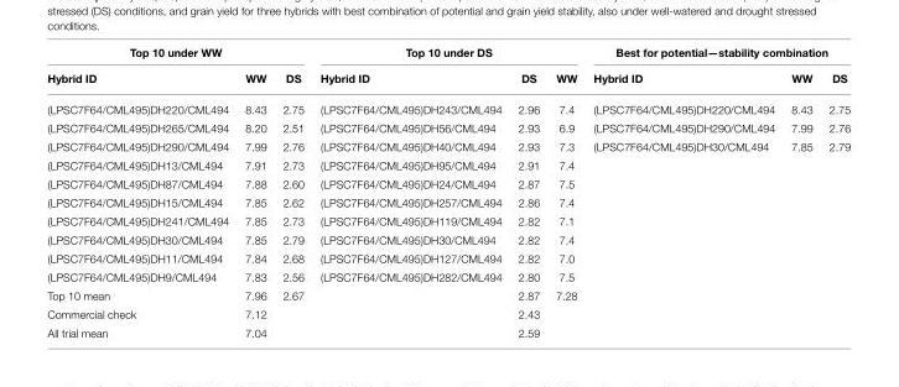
<table><thead><tr><td colspan="3">Top 10 under WW</td><td colspan="3">Top 10 under DS</td><td colspan="3">Best for potential—stability combination</td></tr><tr><td>Hybrid ID</td><td>WW</td><td>DS</td><td>Hybrid ID</td><td>DS</td><td>WW</td><td>Hybrid ID</td><td>WW</td><td>DS</td></tr></thead><tbody><tr><td>(LPSC7F64/CML495)DH220/CML494</td><td>8.43</td><td>2.75</td><td>(LPSC7F64/CML495)DH243/CML494</td><td>2.96</td><td>7.4</td><td>(LPSC7F64/CML495)DH220/CML494</td><td>8.43</td><td>2.75</td></tr><tr><td>(LPSC7F64/CML495)DH265/CML494</td><td>8.20</td><td>2.51</td><td>(LPSC7F64/CML495)DH56/CML494</td><td>2.93</td><td>6.9</td><td>(LPSC7F64/CML495)DH290/CML494</td><td>7.99</td><td>2.76</td></tr><tr><td>(LPSC7F64/CML495)DH290/CML494</td><td>7.99</td><td>2.76</td><td>(LPSC7F64/CML495)DH40/CML494</td><td>2.93</td><td>7.3</td><td>(LPSC7F64/CML495)DH30/CML494</td><td>7.85</td><td>2.79</td></tr><tr><td>(LPSC7F64/CML495)DH13/CML494</td><td>7.91</td><td>2.73</td><td>(LPSC7F64/CML495)DH95/CML494</td><td>2.91</td><td>7.4</td><td></td><td></td><td></td></tr><tr><td>(LPSC7F64/CML495)DH87/CML494</td><td>7.88</td><td>2.60</td><td>(LPSC7F64/CML495)DH24/CML494</td><td>2.87</td><td>7.5</td><td></td><td></td><td></td></tr><tr><td>(LPSC7F64/CML495)DH15/CML494</td><td>7.85</td><td>2.62</td><td>(LPSC7F64/CML495)DH257/CML494</td><td>2.86</td><td>7.4</td><td></td><td></td><td></td></tr><tr><td>(LPSC7F64/CML495)DH241/CML494</td><td>7.85</td><td>2.73</td><td>(LPSC7F64/CML495)DH119/CML494</td><td>2.82</td><td>7.1</td><td></td><td></td><td></td></tr><tr><td>(LPSC7F64/CML495)DH30/CML494</td><td>7.85</td><td>2.79</td><td>(LPSC7F64/CML495)DH30/CML494</td><td>2.82</td><td>7.4</td><td></td><td></td><td></td></tr><tr><td>(LPSC7F64/CML495)DH11/CML494</td><td>7.84</td><td>2.68</td><td>(LPSC7F64/CML495)DH127/CML494</td><td>2.82</td><td>7.0</td><td></td><td></td><td></td></tr><tr><td>(LPSC7F64/CML495)DH9/CML494</td><td>7.83</td><td>2.56</td><td>(LPSC7F64/CML495)DH282/CML494</td><td>2.80</td><td>7.5</td><td></td><td></td><td></td></tr><tr><td>Top 10 mean</td><td>7.96</td><td>2.67</td><td></td><td>2.87</td><td>7.28</td><td></td><td></td><td></td></tr><tr><td>Commercial check</td><td>7.12</td><td></td><td></td><td>2.43</td><td></td><td></td><td></td><td></td></tr><tr><td>All trial mean</td><td>7.04</td><td></td><td></td><td>2.59</td><td></td><td></td><td></td><td></td></tr></tbody></table>